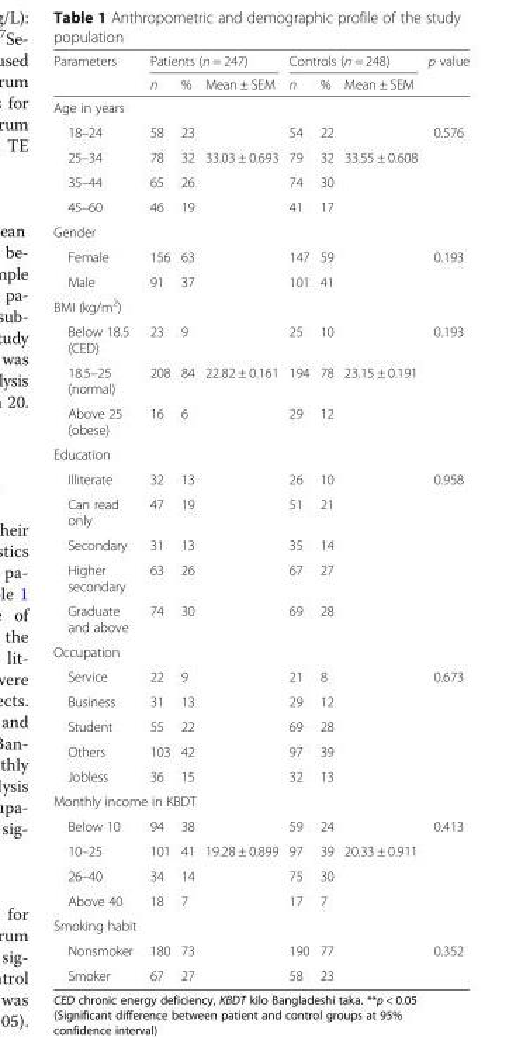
<table><thead><tr><td rowspan="2">Parameters</td><td colspan="3">Patients (n = 247)</td><td colspan="3">Controls (n = 248)</td><td rowspan="2">p value</td></tr><tr><td>n</td><td>%</td><td>Mean ± SEM</td><td>n</td><td>%</td><td>Mean ± SEM</td></tr></thead><tbody><tr><td colspan="8">Age in years</td></tr><tr><td>18–24</td><td>58</td><td>23</td><td></td><td>54</td><td>22</td><td></td><td>0.576</td></tr><tr><td>25–34</td><td>78</td><td>32</td><td>33.03 ± 0.693</td><td>79</td><td>32</td><td>33.55 ± 0.608</td><td></td></tr><tr><td>35–44</td><td>65</td><td>26</td><td></td><td>74</td><td>30</td><td></td><td></td></tr><tr><td>45–60</td><td>46</td><td>19</td><td></td><td>41</td><td>17</td><td></td><td></td></tr><tr><td colspan="8">Gender</td></tr><tr><td>Female</td><td>156</td><td>63</td><td></td><td>147</td><td>59</td><td></td><td>0.193</td></tr><tr><td>Male</td><td>91</td><td>37</td><td></td><td>101</td><td>41</td><td></td><td></td></tr><tr><td colspan="8">BMI (kg/m<sup>2</sup>)</td></tr><tr><td>Below 18.5 (CED)</td><td>23</td><td>9</td><td></td><td>25</td><td>10</td><td></td><td>0.193</td></tr><tr><td>18.5–25 (normal)</td><td>208</td><td>84</td><td>22.82 ± 0.161</td><td>194</td><td>78</td><td>23.15 ± 0.191</td><td></td></tr><tr><td>Above 25 (obese)</td><td>16</td><td>6</td><td></td><td>29</td><td>12</td><td></td><td></td></tr><tr><td colspan="8">Education</td></tr><tr><td>Illiterate</td><td>32</td><td>13</td><td></td><td>26</td><td>10</td><td></td><td>0.958</td></tr><tr><td>Can read only</td><td>47</td><td>19</td><td></td><td>51</td><td>21</td><td></td><td></td></tr><tr><td>Secondary</td><td>31</td><td>13</td><td></td><td>35</td><td>14</td><td></td><td></td></tr><tr><td>Higher secondary</td><td>63</td><td>26</td><td></td><td>67</td><td>27</td><td></td><td></td></tr><tr><td>Graduate and above</td><td>74</td><td>30</td><td></td><td>69</td><td>28</td><td></td><td></td></tr><tr><td colspan="8">Occupation</td></tr><tr><td>Service</td><td>22</td><td>9</td><td></td><td>21</td><td>8</td><td></td><td>0.673</td></tr><tr><td>Business</td><td>31</td><td>13</td><td></td><td>29</td><td>12</td><td></td><td></td></tr><tr><td>Student</td><td>55</td><td>22</td><td></td><td>69</td><td>28</td><td></td><td></td></tr><tr><td>Others</td><td>103</td><td>42</td><td></td><td>97</td><td>39</td><td></td><td></td></tr><tr><td>Jobless</td><td>36</td><td>15</td><td></td><td>32</td><td>13</td><td></td><td></td></tr><tr><td colspan="8">Monthly income in KBDT</td></tr><tr><td>Below 10</td><td>94</td><td>38</td><td></td><td>59</td><td>24</td><td></td><td>0.413</td></tr><tr><td>10–25</td><td>101</td><td>41</td><td>19.28 ± 0.899</td><td>97</td><td>39</td><td>20.33 ± 0.911</td><td></td></tr><tr><td>26–40</td><td>34</td><td>14</td><td></td><td>75</td><td>30</td><td></td><td></td></tr><tr><td>Above 40</td><td>18</td><td>7</td><td></td><td>17</td><td>7</td><td></td><td></td></tr><tr><td colspan="8">Smoking habit</td></tr><tr><td>Nonsmoker</td><td>180</td><td>73</td><td></td><td>190</td><td>77</td><td></td><td>0.352</td></tr><tr><td>Smoker</td><td>67</td><td>27</td><td></td><td>58</td><td>23</td><td></td><td></td></tr></tbody></table>